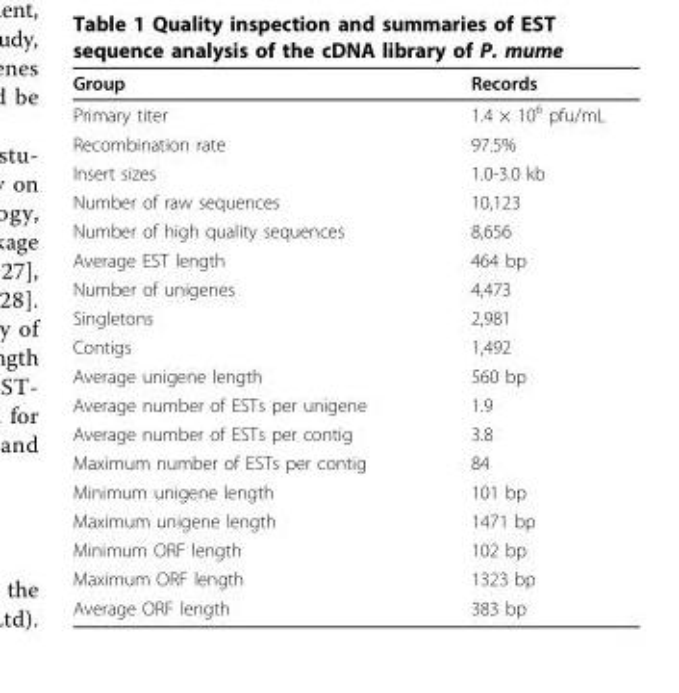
<table><thead><tr><td>Group</td><td>Records</td></tr></thead><tbody><tr><td>Primary titer</td><td>1.4 × 10<sup>6</sup> pfu/mL</td></tr><tr><td>Recombination rate</td><td>97.5%</td></tr><tr><td>Insert sizes</td><td>1.0-3.0 kb</td></tr><tr><td>Number of raw sequences</td><td>10,123</td></tr><tr><td>Number of high quality sequences</td><td>8,656</td></tr><tr><td>Average EST length</td><td>464 bp</td></tr><tr><td>Number of unigenes</td><td>4,473</td></tr><tr><td>Singletons</td><td>2,981</td></tr><tr><td>Contigs</td><td>1,492</td></tr><tr><td>Average unigene length</td><td>560 bp</td></tr><tr><td>Average number of ESTs per unigene</td><td>1.9</td></tr><tr><td>Average number of ESTs per contig</td><td>3.8</td></tr><tr><td>Maximum number of ESTs per contig</td><td>84</td></tr><tr><td>Minimum unigene length</td><td>101 bp</td></tr><tr><td>Maximum unigene length</td><td>1471 bp</td></tr><tr><td>Minimum ORF length</td><td>102 bp</td></tr><tr><td>Maximum ORF length</td><td>1323 bp</td></tr><tr><td>Average ORF length</td><td>383 bp</td></tr></tbody></table>